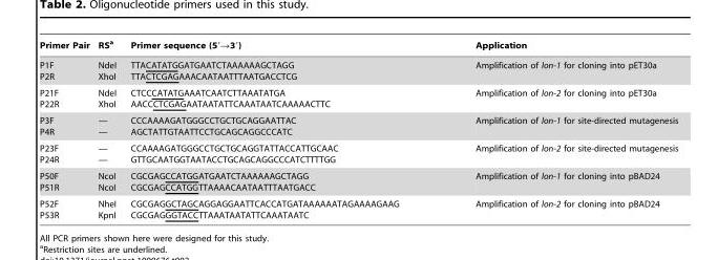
<table><thead><tr><td>Primer Pair</td><td>RS<sup>a</sup></td><td>Primer sequence (5′→3′)</td><td>Application</td></tr></thead><tbody><tr><td>P1F P2R</td><td>NdeI XhoI</td><td>TTACATATGGATGAATCTAAAAAAGCTAGG TTACTCGAGAAACAATAATTTAATGACCTCG</td><td>Amplification of lon-1 for cloning into pET30a</td></tr><tr><td>P21F P22R</td><td>NdeI XhoI</td><td>CTCCCATATGAAATCAATCTTAAATATGA AACCCTCGAGAATAATATTCAAATAATCAAAAACTTC</td><td>Amplification of lon-2 for cloning into pET30a</td></tr><tr><td>P3F P4R</td><td>— —</td><td>CCCAAAAGATGGGCCTGCTGCAGGAATTAC AGCTATTGTAATTCCTGCAGCAGGCCCATC</td><td>Amplification of lon-1 for site-directed mutagenesis</td></tr><tr><td>P23F P24R</td><td>— —</td><td>CCAAAAGATGGGCCTGCTGCAGGTATTACCATTGCAAC GTTGCAATGGTAATACCTGCAGCAGGCCCATCTTTTGG</td><td>Amplification of lon-2 for site-directed mutagenesis</td></tr><tr><td>P50F P51R</td><td>NcoI NcoI</td><td>CGCGAGCCATGGATGAATCTAAAAAAGCTAGG CGCGAGCCATGGTTAAAACAATAATTTAATGACC</td><td>Amplification of lon-1 for cloning into pBAD24</td></tr><tr><td>P52F P53R</td><td>NheI KpnI</td><td>CGCGAGGCTAGCAGGAGGAATTCACCATGATAAAAAATAGAAAAGAAG CGCGAGGGTACCTTAAATAATATTCAAATAATC</td><td>Amplification of lon-2 for cloning into pBAD24</td></tr></tbody></table>